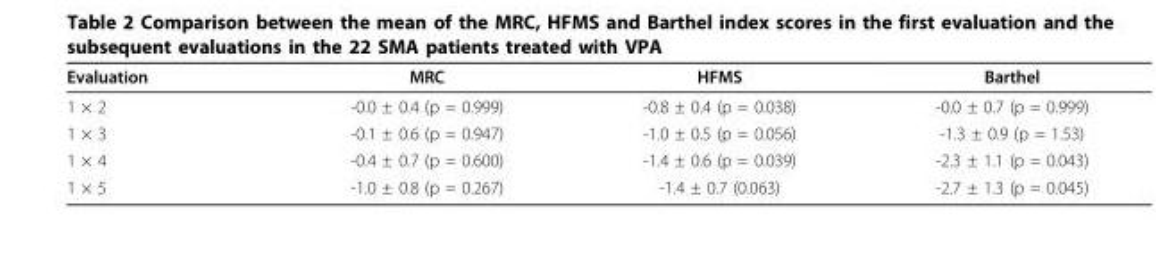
<table><thead><tr><td>Evaluation</td><td>MRC</td><td>HFMS</td><td>Barthel</td></tr></thead><tbody><tr><td>1 × 2</td><td>-0.0 ± 0.4 (p = 0.999)</td><td>-0.8 ± 0.4 (p = 0.038)</td><td>-0.0 ± 0.7 (p = 0.999)</td></tr><tr><td>1 × 3</td><td>-0.1 ± 0.6 (p = 0.947)</td><td>-1.0 ± 0.5 (p = 0.056)</td><td>-1.3 ± 0.9 (p = 1.53)</td></tr><tr><td>1 × 4</td><td>-0.4 ± 0.7 (p = 0.600)</td><td>-1.4 ± 0.6 (p = 0.039)</td><td>-2.3 ± 1.1 (p = 0.043)</td></tr><tr><td>1 × 5</td><td>-1.0 ± 0.8 (p = 0.267)</td><td>-1.4 ± 0.7 (0.063)</td><td>-2.7 ± 1.3 (p = 0.045)</td></tr></tbody></table>